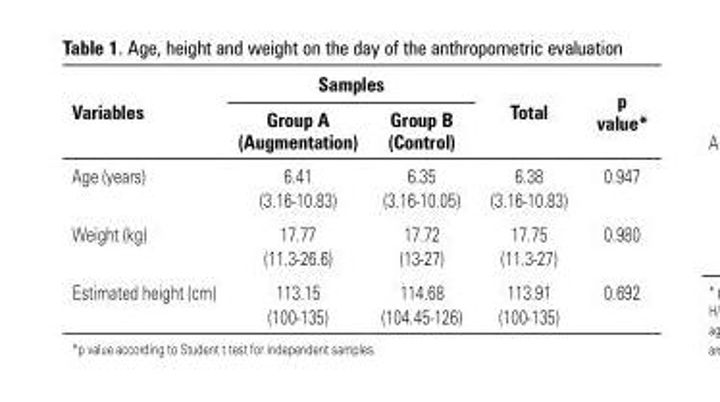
<table><thead><tr><td rowspan="2">Variables</td><td colspan="2">Samples</td><td rowspan="2">Total</td><td rowspan="2">p value*</td></tr><tr><td>Group A (Augmentation)</td><td>Group B (Control)</td></tr></thead><tbody><tr><td>Age (years)</td><td>6.41 (3.16-10.83)</td><td>6.35 (3.16-10.05)</td><td>6.38 (3.16-10.83)</td><td>0.947</td></tr><tr><td>Weight (kg)</td><td>17.77 (11.3-26.6)</td><td>17.72 (13-27)</td><td>17.75 (11.3-27)</td><td>0.980</td></tr><tr><td>Estimated height (cm)</td><td>113.15 (100-135)</td><td>114.68 (104.45-126)</td><td>113.91 (100-135)</td><td>0.692</td></tr></tbody></table>